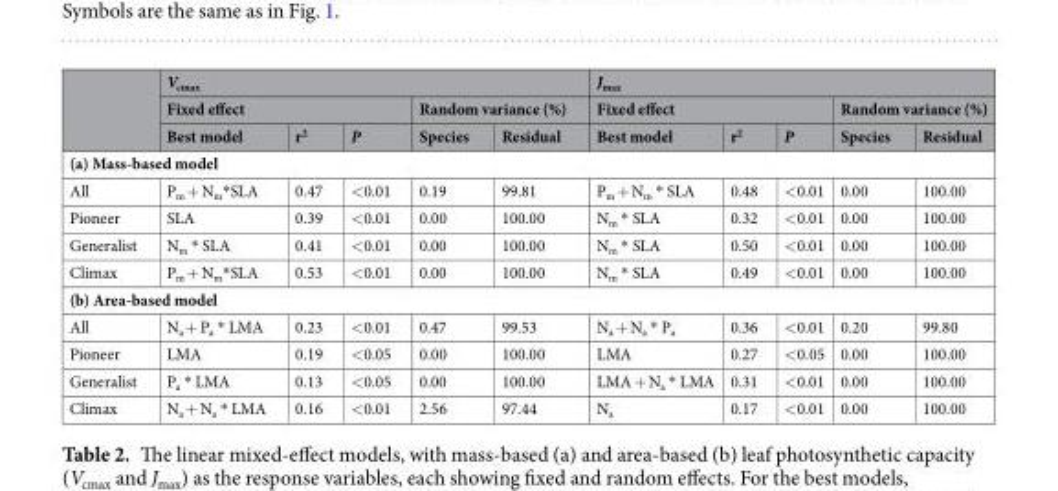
<table><thead><tr><td rowspan="3"></td><td colspan="5">V<sub>cmax</sub></td><td colspan="5">J<sub>max</sub></td></tr><tr><td colspan="3">Fixed effect</td><td colspan="2">Random variance (%)</td><td colspan="3">Fixed effect</td><td colspan="2">Random variance (%)</td></tr><tr><td>Best model</td><td>r<sup>2</sup></td><td>P</td><td>Species</td><td>Residual</td><td>Best model</td><td>r<sup>2</sup></td><td>P</td><td>Species</td><td>Residual</td></tr></thead><tbody><tr><td colspan="11">(a) Mass-based model</td></tr><tr><td>All</td><td>P<sub>m</sub> + N<sub>m</sub>*SLA</td><td>0.47</td><td>&lt;0.01</td><td>0.19</td><td>99.81</td><td>P<sub>m</sub> + N<sub>m</sub> * SLA</td><td>0.48</td><td>&lt;0.01</td><td>0.00</td><td>100.00</td></tr><tr><td>Pioneer</td><td>SLA</td><td>0.39</td><td>&lt;0.01</td><td>0.00</td><td>100.00</td><td>N<sub>m</sub> * SLA</td><td>0.32</td><td>&lt;0.01</td><td>0.00</td><td>100.00</td></tr><tr><td>Generalist</td><td>N<sub>m</sub> * SLA</td><td>0.41</td><td>&lt;0.01</td><td>0.00</td><td>100.00</td><td>N<sub>m</sub> * SLA</td><td>0.50</td><td>&lt;0.01</td><td>0.00</td><td>100.00</td></tr><tr><td>Climax</td><td>P<sub>m</sub> + N<sub>m</sub>*SLA</td><td>0.53</td><td>&lt;0.01</td><td>0.00</td><td>100.00</td><td>N<sub>m</sub> * SLA</td><td>0.49</td><td>&lt;0.01</td><td>0.00</td><td>100.00</td></tr><tr><td colspan="11">(b) Area-based model</td></tr><tr><td>All</td><td>N<sub>a</sub> + P<sub>a</sub> * LMA</td><td>0.23</td><td>&lt;0.01</td><td>0.47</td><td>99.53</td><td>N<sub>a</sub> + N<sub>a</sub> * P<sub>a</sub></td><td>0.36</td><td>&lt;0.01</td><td>0.20</td><td>99.80</td></tr><tr><td>Pioneer</td><td>LMA</td><td>0.19</td><td>&lt;0.05</td><td>0.00</td><td>100.00</td><td>LMA</td><td>0.27</td><td>&lt;0.05</td><td>0.00</td><td>100.00</td></tr><tr><td>Generalist</td><td>P<sub>a</sub> * LMA</td><td>0.13</td><td>&lt;0.05</td><td>0.00</td><td>100.00</td><td>LMA + N<sub>a</sub> * LMA</td><td>0.31</td><td>&lt;0.01</td><td>0.00</td><td>100.00</td></tr><tr><td>Climax</td><td>N<sub>a</sub> + N<sub>a</sub> * LMA</td><td>0.16</td><td>&lt;0.01</td><td>2.56</td><td>97.44</td><td>N<sub>a</sub></td><td>0.17</td><td>&lt;0.01</td><td>0.00</td><td>100.00</td></tr></tbody></table>